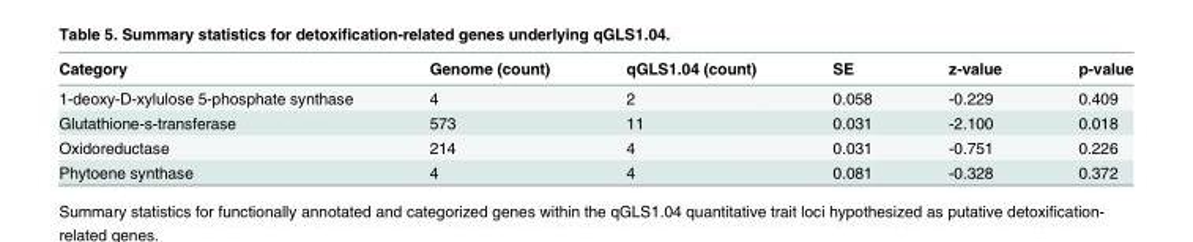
<table><thead><tr><td>Category</td><td>Genome (count)</td><td>qGLS1.04 (count)</td><td>SE</td><td>z-value</td><td>p-value</td></tr></thead><tbody><tr><td>1-deoxy-D-xylulose 5-phosphate synthase</td><td>4</td><td>2</td><td>0.058</td><td>-0.229</td><td>0.409</td></tr><tr><td>Glutathione-s-transferase</td><td>573</td><td>11</td><td>0.031</td><td>-2.100</td><td>0.018</td></tr><tr><td>Oxidoreductase</td><td>214</td><td>4</td><td>0.031</td><td>-0.751</td><td>0.226</td></tr><tr><td>Phytoene synthase</td><td>4</td><td>4</td><td>0.081</td><td>-0.328</td><td>0.372</td></tr></tbody></table>